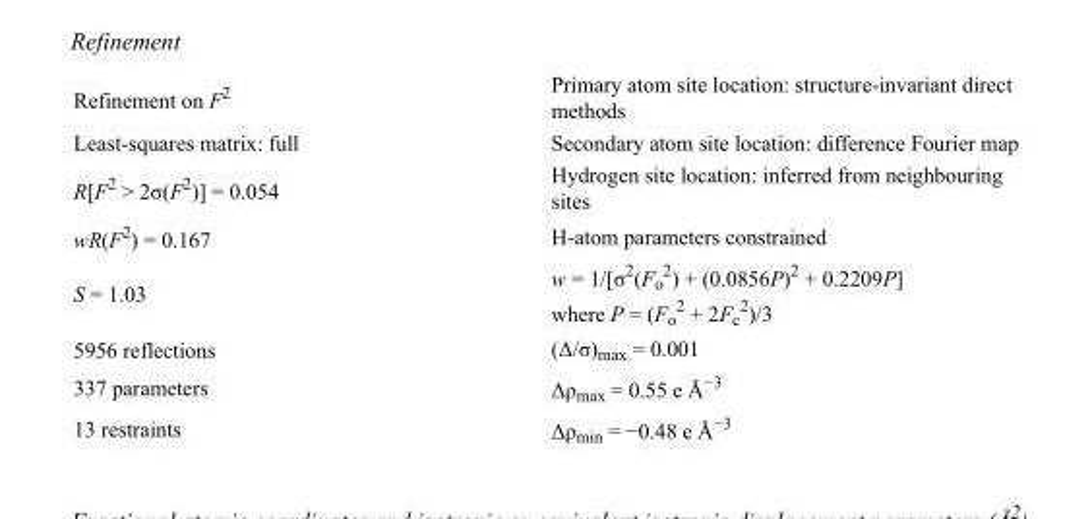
<table><tbody><tr><td>Refinement on F<sup>2</sup></td><td>Primary atom site location: structure-invariant direct methods</td></tr><tr><td>Least-squares matrix: full</td><td>Secondary atom site location: difference Fourier map</td></tr><tr><td>R[F<sup>2</sup> &gt; 2σ(F<sup>2</sup>)] = 0.054</td><td>Hydrogen site location: inferred from neighbouring sites</td></tr><tr><td>wR(F<sup>2</sup>) = 0.167</td><td>H-atom parameters constrained</td></tr><tr><td>S = 1.03</td><td>w = 1/[σ<sup>2</sup>(F<sub>o</sub> <sup>2</sup>) + (0.0856P)<sup>2</sup> + 0.2209P] where P = (F<sub>o</sub> <sup>2</sup> + 2F<sub>c</sub> <sup>2</sup>)/3</td></tr><tr><td>5956 reflections</td><td>(Δ/σ)<sub>max</sub> = 0.001</td></tr><tr><td>337 parameters</td><td>Δρ<sub>max</sub> = 0.55 e Å<sup>−3</sup></td></tr><tr><td>13 restraints</td><td>Δρ<sub>min</sub> = −0.48 e Å<sup>−3</sup></td></tr></tbody></table>